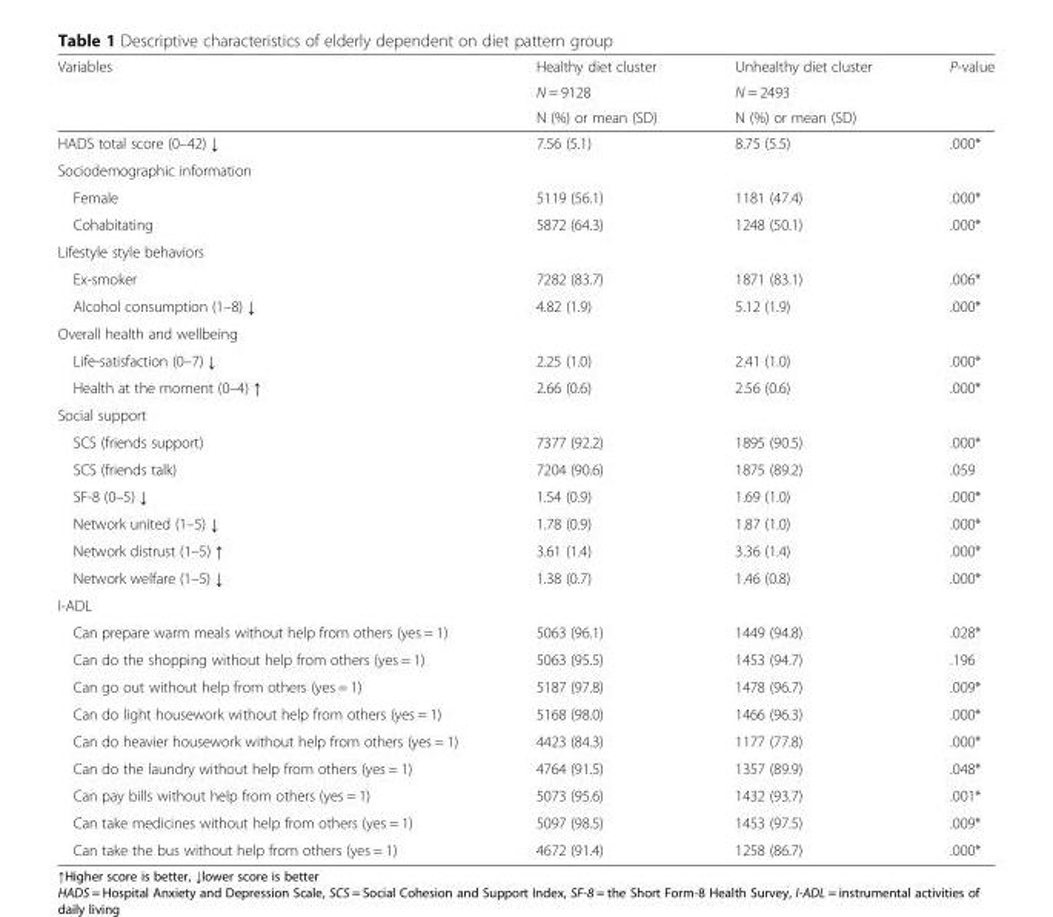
<table><thead><tr><td rowspan="3">Variables</td><td rowspan="3">Healthy diet cluster N = 9128 N (%) or mean (SD)</td><td rowspan="3">Unhealthy diet cluster N = 2493 N (%) or mean (SD)</td><td rowspan="3">P-value</td></tr><tr></tr><tr></tr></thead><tbody><tr><td>HADS total score (0–42) ↓</td><td>7.56 (5.1)</td><td>8.75 (5.5)</td><td>.000*</td></tr><tr><td colspan="4">Sociodemographic information</td></tr><tr><td>Female</td><td>5119 (56.1)</td><td>1181 (47.4)</td><td>.000*</td></tr><tr><td>Cohabitating</td><td>5872 (64.3)</td><td>1248 (50.1)</td><td>.000*</td></tr><tr><td colspan="4">Lifestyle style behaviors</td></tr><tr><td>Ex-smoker</td><td>7282 (83.7)</td><td>1871 (83.1)</td><td>.006*</td></tr><tr><td>Alcohol consumption (1–8) ↓</td><td>4.82 (1.9)</td><td>5.12 (1.9)</td><td>.000*</td></tr><tr><td colspan="4">Overall health and wellbeing</td></tr><tr><td>Life-satisfaction (0–7) ↓</td><td>2.25 (1.0)</td><td>2.41 (1.0)</td><td>.000*</td></tr><tr><td>Health at the moment (0–4) ↑</td><td>2.66 (0.6)</td><td>2.56 (0.6)</td><td>.000*</td></tr><tr><td colspan="4">Social support</td></tr><tr><td>SCS (friends support)</td><td>7377 (92.2)</td><td>1895 (90.5)</td><td>.000*</td></tr><tr><td>SCS (friends talk)</td><td>7204 (90.6)</td><td>1875 (89.2)</td><td>.059</td></tr><tr><td>SF-8 (0–5) ↓</td><td>1.54 (0.9)</td><td>1.69 (1.0)</td><td>.000*</td></tr><tr><td>Network united (1–5) ↓</td><td>1.78 (0.9)</td><td>1.87 (1.0)</td><td>.000*</td></tr><tr><td>Network distrust (1–5) ↑</td><td>3.61 (1.4)</td><td>3.36 (1.4)</td><td>.000*</td></tr><tr><td>Network welfare (1–5) ↓</td><td>1.38 (0.7)</td><td>1.46 (0.8)</td><td>.000*</td></tr><tr><td colspan="4">I-ADL</td></tr><tr><td>Can prepare warm meals without help from others (yes = 1)</td><td>5063 (96.1)</td><td>1449 (94.8)</td><td>.028*</td></tr><tr><td>Can do the shopping without help from others (yes = 1)</td><td>5063 (95.5)</td><td>1453 (94.7)</td><td>.196</td></tr><tr><td>Can go out without help from others (yes = 1)</td><td>5187 (97.8)</td><td>1478 (96.7)</td><td>.009*</td></tr><tr><td>Can do light housework without help from others (yes = 1)</td><td>5168 (98.0)</td><td>1466 (96.3)</td><td>.000*</td></tr><tr><td>Can do heavier housework without help from others (yes = 1)</td><td>4423 (84.3)</td><td>1177 (77.8)</td><td>.000*</td></tr><tr><td>Can do the laundry without help from others (yes = 1)</td><td>4764 (91.5)</td><td>1357 (89.9)</td><td>.048*</td></tr><tr><td>Can pay bills without help from others (yes = 1)</td><td>5073 (95.6)</td><td>1432 (93.7)</td><td>.001*</td></tr><tr><td>Can take medicines without help from others (yes = 1)</td><td>5097 (98.5)</td><td>1453 (97.5)</td><td>.009*</td></tr><tr><td>Can take the bus without help from others (yes = 1)</td><td>4672 (91.4)</td><td>1258 (86.7)</td><td>.000*</td></tr></tbody></table>